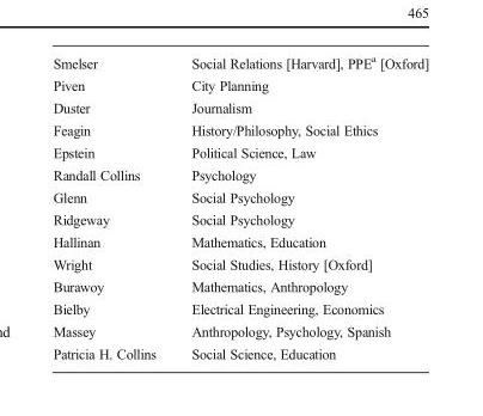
<table><tbody><tr><td>Smelser</td><td>Social Relations [Harvard], PPE<sup>a</sup> [Oxford]</td></tr><tr><td>Piven</td><td>City Planning</td></tr><tr><td>Duster</td><td>Journalism</td></tr><tr><td>Feagin</td><td>History/Philosophy, Social Ethics</td></tr><tr><td>Epstein</td><td>Political Science, Law</td></tr><tr><td>Randall Collins</td><td>Psychology</td></tr><tr><td>Glenn</td><td>Social Psychology</td></tr><tr><td>Ridgeway</td><td>Social Psychology</td></tr><tr><td>Hallinan</td><td>Mathematics, Education</td></tr><tr><td>Wright</td><td>Social Studies, History [Oxford]</td></tr><tr><td>Burawoy</td><td>Mathematics, Anthropology</td></tr><tr><td>Bielby</td><td>Electrical Engineering, Economics</td></tr><tr><td>Massey</td><td>Anthropology, Psychology, Spanish</td></tr><tr><td>Patricia H. Collins</td><td>Social Science, Education</td></tr></tbody></table>